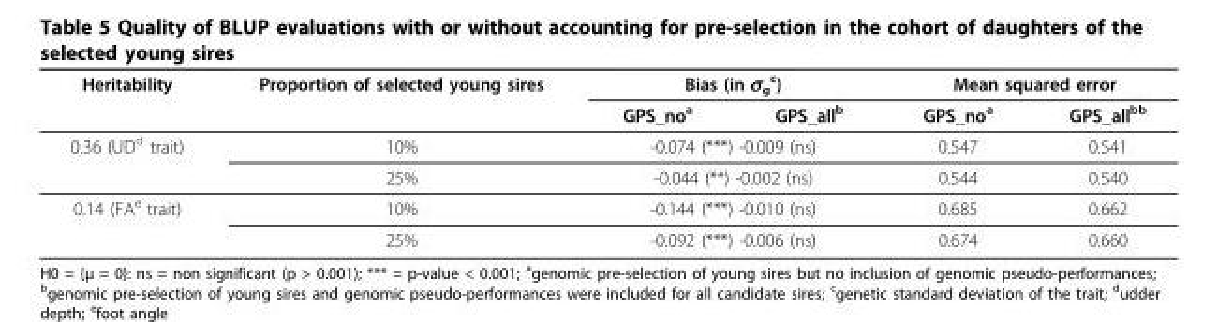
<table><thead><tr><td rowspan="2">Heritability</td><td rowspan="2">Proportion of selected young sires</td><td colspan="2">Bias (in σ<sub>g</sub> <sup>c</sup>)</td><td colspan="2">Mean squared error</td></tr><tr><td>GPS_no<sup>a</sup></td><td>GPS_all<sup>b</sup></td><td>GPS_no<sup>a</sup></td><td>GPS_all<sup>bb</sup></td></tr></thead><tbody><tr><td rowspan="2">0.36 (UD<sup>d</sup> trait)</td><td>10%</td><td colspan="2">-0.074 (***) -0.009 (ns)</td><td>0.547</td><td>0.541</td></tr><tr><td>25%</td><td colspan="2">-0.044 (**) -0.002 (ns)</td><td>0.544</td><td>0.540</td></tr><tr><td rowspan="2">0.14 (FA<sup>e</sup> trait)</td><td>10%</td><td colspan="2">-0.144 (***) -0.010 (ns)</td><td>0.685</td><td>0.662</td></tr><tr><td>25%</td><td colspan="2">-0.092 (***) -0.006 (ns)</td><td>0.674</td><td>0.660</td></tr></tbody></table>